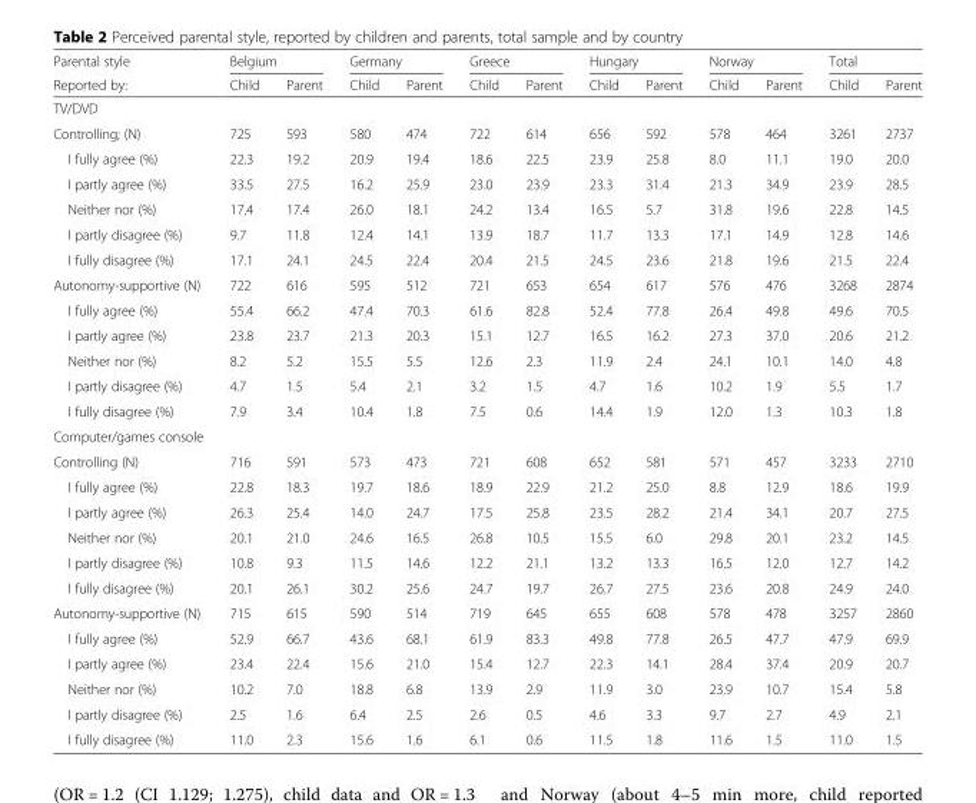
<table><thead><tr><td rowspan="2">Parental style Reported by:</td><td colspan="2">Belgium</td><td colspan="2">Germany</td><td colspan="2">Greece</td><td colspan="2">Hungary</td><td colspan="2">Norway</td><td colspan="2">Total</td></tr><tr><td>Child</td><td>Parent</td><td>Child</td><td>Parent</td><td>Child</td><td>Parent</td><td>Child</td><td>Parent</td><td>Child</td><td>Parent</td><td>Child</td><td>Parent</td></tr></thead><tbody><tr><td colspan="13">TV/DVD</td></tr><tr><td>Controlling; (N)</td><td>725</td><td>593</td><td>580</td><td>474</td><td>722</td><td>614</td><td>656</td><td>592</td><td>578</td><td>464</td><td>3261</td><td>2737</td></tr><tr><td>I fully agree (%)</td><td>22.3</td><td>19.2</td><td>20.9</td><td>19.4</td><td>18.6</td><td>22.5</td><td>23.9</td><td>25.8</td><td>8.0</td><td>11.1</td><td>19.0</td><td>20.0</td></tr><tr><td>I partly agree (%)</td><td>33.5</td><td>27.5</td><td>16.2</td><td>25.9</td><td>23.0</td><td>23.9</td><td>23.3</td><td>31.4</td><td>21.3</td><td>34.9</td><td>23.9</td><td>28.5</td></tr><tr><td>Neither nor (%)</td><td>17.4</td><td>17.4</td><td>26.0</td><td>18.1</td><td>24.2</td><td>13.4</td><td>16.5</td><td>5.7</td><td>31.8</td><td>19.6</td><td>22.8</td><td>14.5</td></tr><tr><td>I partly disagree (%)</td><td>9.7</td><td>11.8</td><td>12.4</td><td>14.1</td><td>13.9</td><td>18.7</td><td>11.7</td><td>13.3</td><td>17.1</td><td>14.9</td><td>12.8</td><td>14.6</td></tr><tr><td>I fully disagree (%)</td><td>17.1</td><td>24.1</td><td>24.5</td><td>22.4</td><td>20.4</td><td>21.5</td><td>24.5</td><td>23.6</td><td>21.8</td><td>19.6</td><td>21.5</td><td>22.4</td></tr><tr><td>Autonomy-supportive (N)</td><td>722</td><td>616</td><td>595</td><td>512</td><td>721</td><td>653</td><td>654</td><td>617</td><td>576</td><td>476</td><td>3268</td><td>2874</td></tr><tr><td>I fully agree (%)</td><td>55.4</td><td>66.2</td><td>47.4</td><td>70.3</td><td>61.6</td><td>82.8</td><td>52.4</td><td>77.8</td><td>26.4</td><td>49.8</td><td>49.6</td><td>70.5</td></tr><tr><td>I partly agree (%)</td><td>23.8</td><td>23.7</td><td>21.3</td><td>20.3</td><td>15.1</td><td>12.7</td><td>16.5</td><td>16.2</td><td>27.3</td><td>37.0</td><td>20.6</td><td>21.2</td></tr><tr><td>Neither nor (%)</td><td>8.2</td><td>5.2</td><td>15.5</td><td>5.5</td><td>12.6</td><td>2.3</td><td>11.9</td><td>2.4</td><td>24.1</td><td>10.1</td><td>14.0</td><td>4.8</td></tr><tr><td>I partly disagree (%)</td><td>4.7</td><td>1.5</td><td>5.4</td><td>2.1</td><td>3.2</td><td>1.5</td><td>4.7</td><td>1.6</td><td>10.2</td><td>1.9</td><td>5.5</td><td>1.7</td></tr><tr><td>I fully disagree (%)</td><td>7.9</td><td>3.4</td><td>10.4</td><td>1.8</td><td>7.5</td><td>0.6</td><td>14.4</td><td>1.9</td><td>12.0</td><td>1.3</td><td>10.3</td><td>1.8</td></tr><tr><td colspan="13">Computer/games console</td></tr><tr><td>Controlling (N)</td><td>716</td><td>591</td><td>573</td><td>473</td><td>721</td><td>608</td><td>652</td><td>581</td><td>571</td><td>457</td><td>3233</td><td>2710</td></tr><tr><td>I fully agree (%)</td><td>22.8</td><td>18.3</td><td>19.7</td><td>18.6</td><td>18.9</td><td>22.9</td><td>21.2</td><td>25.0</td><td>8.8</td><td>12.9</td><td>18.6</td><td>19.9</td></tr><tr><td>I partly agree (%)</td><td>26.3</td><td>25.4</td><td>14.0</td><td>24.7</td><td>17.5</td><td>25.8</td><td>23.5</td><td>28.2</td><td>21.4</td><td>34.1</td><td>20.7</td><td>27.5</td></tr><tr><td>Neither nor (%)</td><td>20.1</td><td>21.0</td><td>24.6</td><td>16.5</td><td>26.8</td><td>10.5</td><td>15.5</td><td>6.0</td><td>29.8</td><td>20.1</td><td>23.2</td><td>14.5</td></tr><tr><td>I partly disagree (%)</td><td>10.8</td><td>9.3</td><td>11.5</td><td>14.6</td><td>12.2</td><td>21.1</td><td>13.2</td><td>13.3</td><td>16.5</td><td>12.0</td><td>12.7</td><td>14.2</td></tr><tr><td>I fully disagree (%)</td><td>20.1</td><td>26.1</td><td>30.2</td><td>25.6</td><td>24.7</td><td>19.7</td><td>26.7</td><td>27.5</td><td>23.6</td><td>20.8</td><td>24.9</td><td>24.0</td></tr><tr><td>Autonomy-supportive (N)</td><td>715</td><td>615</td><td>590</td><td>514</td><td>719</td><td>645</td><td>655</td><td>608</td><td>578</td><td>478</td><td>3257</td><td>2860</td></tr><tr><td>I fully agree (%)</td><td>52.9</td><td>66.7</td><td>43.6</td><td>68.1</td><td>61.9</td><td>83.3</td><td>49.8</td><td>77.8</td><td>26.5</td><td>47.7</td><td>47.9</td><td>69.9</td></tr><tr><td>I partly agree (%)</td><td>23.4</td><td>22.4</td><td>15.6</td><td>21.0</td><td>15.4</td><td>12.7</td><td>22.3</td><td>14.1</td><td>28.4</td><td>37.4</td><td>20.9</td><td>20.7</td></tr><tr><td>Neither nor (%)</td><td>10.2</td><td>7.0</td><td>18.8</td><td>6.8</td><td>13.9</td><td>2.9</td><td>11.9</td><td>3.0</td><td>23.9</td><td>10.7</td><td>15.4</td><td>5.8</td></tr><tr><td>I partly disagree (%)</td><td>2.5</td><td>1.6</td><td>6.4</td><td>2.5</td><td>2.6</td><td>0.5</td><td>4.6</td><td>3.3</td><td>9.7</td><td>2.7</td><td>4.9</td><td>2.1</td></tr><tr><td>I fully disagree (%)</td><td>11.0</td><td>2.3</td><td>15.6</td><td>1.6</td><td>6.1</td><td>0.6</td><td>11.5</td><td>1.8</td><td>11.6</td><td>1.5</td><td>11.0</td><td>1.5</td></tr></tbody></table>